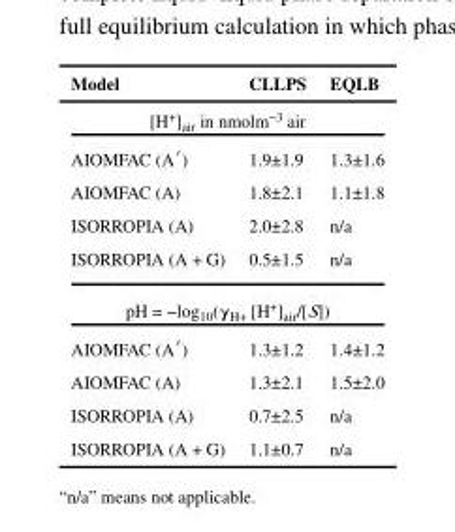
<table><thead><tr><td>Model</td><td>CLLPS</td><td>EQLB</td></tr></thead><tbody><tr><td colspan="3">[H<sup>+</sup>]<sub>air</sub> in nmolm<sup>−3</sup> air</td></tr><tr><td>AIOMFAC (A′)</td><td>1.9±1.9</td><td>1.3±1.6</td></tr><tr><td>AIOMFAC (A)</td><td>1.8±2.1</td><td>1.1±1.8</td></tr><tr><td>ISORROPIA (A)</td><td>2.0±2.8</td><td>n/a</td></tr><tr><td>ISORROPIA (A + G)</td><td>0.5±1.5</td><td>n/a</td></tr><tr><td colspan="3">pH = −log<sub>10</sub>(γ<sub>H+</sub> [H<sup>+</sup>]<sub>air</sub>/[S])</td></tr><tr><td>AIOMFAC (A′)</td><td>1.3±1.2</td><td>1.4±1.2</td></tr><tr><td>AIOMFAC (A)</td><td>1.3±2.1</td><td>1.5±2.0</td></tr><tr><td>ISORROPIA (A)</td><td>0.7±2.5</td><td>n/a</td></tr><tr><td>ISORROPIA (A + G)</td><td>1.1±0.7</td><td>n/a</td></tr></tbody></table>